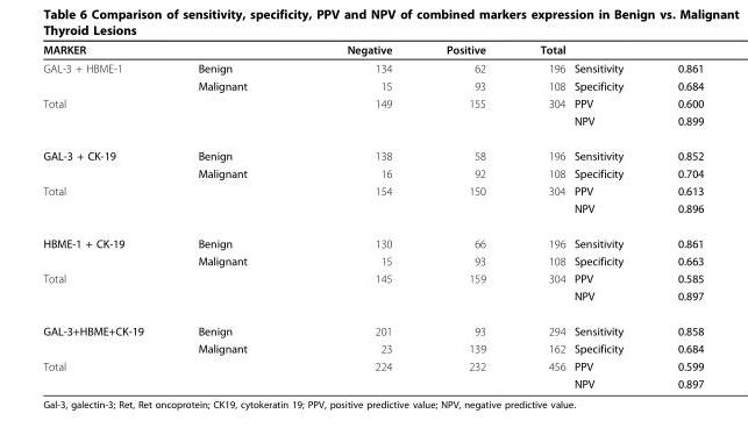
<table><thead><tr><td>MARKER</td><td></td><td>Negative</td><td>Positive</td><td>Total</td><td></td><td></td></tr></thead><tbody><tr><td rowspan="2">GAL-3 + HBME-1</td><td>Benign</td><td>134</td><td>62</td><td>196</td><td>Sensitivity</td><td>0.861</td></tr><tr><td>Malignant</td><td>15</td><td>93</td><td>108</td><td>Specificity</td><td>0.684</td></tr><tr><td rowspan="2">Total</td><td></td><td>149</td><td>155</td><td>304</td><td>PPV</td><td>0.600</td></tr><tr><td></td><td></td><td></td><td></td><td>NPV</td><td>0.899</td></tr><tr><td rowspan="2">GAL-3 + CK-19</td><td>Benign</td><td>138</td><td>58</td><td>196</td><td>Sensitivity</td><td>0.852</td></tr><tr><td>Malignant</td><td>16</td><td>92</td><td>108</td><td>Specificity</td><td>0.704</td></tr><tr><td rowspan="2">Total</td><td></td><td>154</td><td>150</td><td>304</td><td>PPV</td><td>0.613</td></tr><tr><td></td><td></td><td></td><td></td><td>NPV</td><td>0.896</td></tr><tr><td rowspan="2">HBME-1 + CK-19</td><td>Benign</td><td>130</td><td>66</td><td>196</td><td>Sensitivity</td><td>0.861</td></tr><tr><td>Malignant</td><td>15</td><td>93</td><td>108</td><td>Specificity</td><td>0.663</td></tr><tr><td rowspan="2">Total</td><td></td><td>145</td><td>159</td><td>304</td><td>PPV</td><td>0.585</td></tr><tr><td></td><td></td><td></td><td></td><td>NPV</td><td>0.897</td></tr><tr><td rowspan="2">GAL-3+HBME+CK-19</td><td>Benign</td><td>201</td><td>93</td><td>294</td><td>Sensitivity</td><td>0.858</td></tr><tr><td>Malignant</td><td>23</td><td>139</td><td>162</td><td>Specificity</td><td>0.684</td></tr><tr><td rowspan="2">Total</td><td></td><td>224</td><td>232</td><td>456</td><td>PPV</td><td>0.599</td></tr><tr><td></td><td></td><td></td><td></td><td>NPV</td><td>0.897</td></tr></tbody></table>